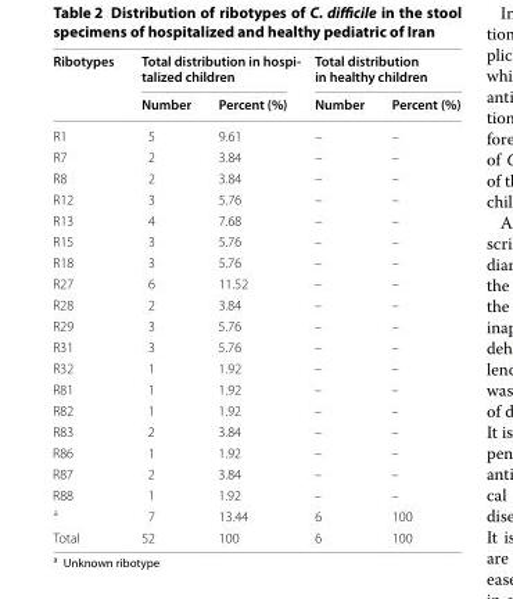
<table><thead><tr><td rowspan="2">Ribotypes</td><td colspan="2">Total distribution in hospi- talized children</td><td colspan="2">Total distribution in healthy children</td></tr><tr><td>Number</td><td>Percent (%)</td><td>Number</td><td>Percent (%)</td></tr></thead><tbody><tr><td>R1</td><td>5</td><td>9.61</td><td>–</td><td>–</td></tr><tr><td>R7</td><td>2</td><td>3.84</td><td>–</td><td>–</td></tr><tr><td>R8</td><td>2</td><td>3.84</td><td>–</td><td>–</td></tr><tr><td>R12</td><td>3</td><td>5.76</td><td>–</td><td>–</td></tr><tr><td>R13</td><td>4</td><td>7.68</td><td>–</td><td>–</td></tr><tr><td>R15</td><td>3</td><td>5.76</td><td>–</td><td>–</td></tr><tr><td>R18</td><td>3</td><td>5.76</td><td>–</td><td>–</td></tr><tr><td>R27</td><td>6</td><td>11.52</td><td>–</td><td>–</td></tr><tr><td>R28</td><td>2</td><td>3.84</td><td>–</td><td>–</td></tr><tr><td>R29</td><td>3</td><td>5.76</td><td>–</td><td>–</td></tr><tr><td>R31</td><td>3</td><td>5.76</td><td>–</td><td>–</td></tr><tr><td>R32</td><td>1</td><td>1.92</td><td>–</td><td>–</td></tr><tr><td>R81</td><td>1</td><td>1.92</td><td>–</td><td>–</td></tr><tr><td>R82</td><td>1</td><td>1.92</td><td>–</td><td>–</td></tr><tr><td>R83</td><td>2</td><td>3.84</td><td>–</td><td>–</td></tr><tr><td>R86</td><td>1</td><td>1.92</td><td>–</td><td>–</td></tr><tr><td>R87</td><td>2</td><td>3.84</td><td>–</td><td>–</td></tr><tr><td>R88</td><td>1</td><td>1.92</td><td>–</td><td>–</td></tr><tr><td><sup>a</sup></td><td>7</td><td>13.44</td><td>6</td><td>100</td></tr><tr><td>Total</td><td>52</td><td>100</td><td>6</td><td>100</td></tr></tbody></table>